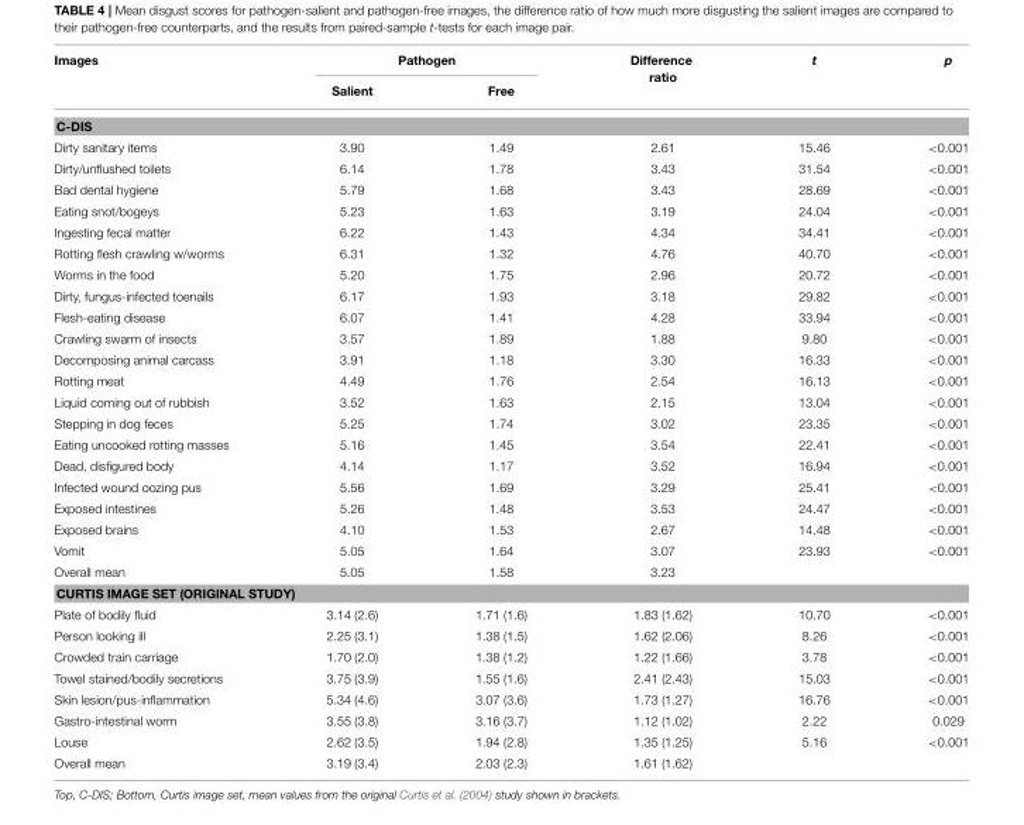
<table><thead><tr><td rowspan="2">Images</td><td colspan="2">Pathogen</td><td rowspan="2">Difference ratio</td><td rowspan="2">t</td><td rowspan="2">p</td></tr><tr><td>Salient</td><td>Free</td></tr></thead><tbody><tr><td colspan="6">C-DIS</td></tr><tr><td>Dirty sanitary items</td><td>3.90</td><td>1.49</td><td>2.61</td><td>15.46</td><td>&lt;0.001</td></tr><tr><td>Dirty/unflushed toilets</td><td>6.14</td><td>1.78</td><td>3.43</td><td>31.54</td><td>&lt;0.001</td></tr><tr><td>Bad dental hygiene</td><td>5.79</td><td>1.68</td><td>3.43</td><td>28.69</td><td>&lt;0.001</td></tr><tr><td>Eating snot/bogeys</td><td>5.23</td><td>1.63</td><td>3.19</td><td>24.04</td><td>&lt;0.001</td></tr><tr><td>Ingesting fecal matter</td><td>6.22</td><td>1.43</td><td>4.34</td><td>34.41</td><td>&lt;0.001</td></tr><tr><td>Rotting flesh crawling w/worms</td><td>6.31</td><td>1.32</td><td>4.76</td><td>40.70</td><td>&lt;0.001</td></tr><tr><td>Worms in the food</td><td>5.20</td><td>1.75</td><td>2.96</td><td>20.72</td><td>&lt;0.001</td></tr><tr><td>Dirty, fungus-infected toenails</td><td>6.17</td><td>1.93</td><td>3.18</td><td>29.82</td><td>&lt;0.001</td></tr><tr><td>Flesh-eating disease</td><td>6.07</td><td>1.41</td><td>4.28</td><td>33.94</td><td>&lt;0.001</td></tr><tr><td>Crawling swarm of insects</td><td>3.57</td><td>1.89</td><td>1.88</td><td>9.80</td><td>&lt;0.001</td></tr><tr><td>Decomposing animal carcass</td><td>3.91</td><td>1.18</td><td>3.30</td><td>16.33</td><td>&lt;0.001</td></tr><tr><td>Rotting meat</td><td>4.49</td><td>1.76</td><td>2.54</td><td>16.13</td><td>&lt;0.001</td></tr><tr><td>Liquid coming out of rubbish</td><td>3.52</td><td>1.63</td><td>2.15</td><td>13.04</td><td>&lt;0.001</td></tr><tr><td>Stepping in dog feces</td><td>5.25</td><td>1.74</td><td>3.02</td><td>23.35</td><td>&lt;0.001</td></tr><tr><td>Eating uncooked rotting masses</td><td>5.16</td><td>1.45</td><td>3.54</td><td>22.41</td><td>&lt;0.001</td></tr><tr><td>Dead, disfigured body</td><td>4.14</td><td>1.17</td><td>3.52</td><td>16.94</td><td>&lt;0.001</td></tr><tr><td>Infected wound oozing pus</td><td>5.56</td><td>1.69</td><td>3.29</td><td>25.41</td><td>&lt;0.001</td></tr><tr><td>Exposed intestines</td><td>5.26</td><td>1.48</td><td>3.53</td><td>24.47</td><td>&lt;0.001</td></tr><tr><td>Exposed brains</td><td>4.10</td><td>1.53</td><td>2.67</td><td>14.48</td><td>&lt;0.001</td></tr><tr><td>Vomit</td><td>5.05</td><td>1.64</td><td>3.07</td><td>23.93</td><td>&lt;0.001</td></tr><tr><td>Overall mean</td><td>5.05</td><td>1.58</td><td>3.23</td><td></td><td></td></tr><tr><td colspan="6">CURTIS IMAGE SET (ORIGINAL STUDY)</td></tr><tr><td>Plate of bodily fluid</td><td>3.14 (2.6)</td><td>1.71 (1.6)</td><td>1.83 (1.62)</td><td>10.70</td><td>&lt;0.001</td></tr><tr><td>Person looking ill</td><td>2.25 (3.1)</td><td>1.38 (1.5)</td><td>1.62 (2.06)</td><td>8.26</td><td>&lt;0.001</td></tr><tr><td>Crowded train carriage</td><td>1.70 (2.0)</td><td>1.38 (1.2)</td><td>1.22 (1.66)</td><td>3.78</td><td>&lt;0.001</td></tr><tr><td>Towel stained/bodily secretions</td><td>3.75 (3.9)</td><td>1.55 (1.6)</td><td>2.41 (2.43)</td><td>15.03</td><td>&lt;0.001</td></tr><tr><td>Skin lesion/pus-inflammation</td><td>5.34 (4.6)</td><td>3.07 (3.6)</td><td>1.73 (1.27)</td><td>16.76</td><td>&lt;0.001</td></tr><tr><td>Gastro-intestinal worm</td><td>3.55 (3.8)</td><td>3.16 (3.7)</td><td>1.12 (1.02)</td><td>2.22</td><td>0.029</td></tr><tr><td>Louse</td><td>2.62 (3.5)</td><td>1.94 (2.8)</td><td>1.35 (1.25)</td><td>5.16</td><td>&lt;0.001</td></tr><tr><td>Overall mean</td><td>3.19 (3.4)</td><td>2.03 (2.3)</td><td>1.61 (1.62)</td><td></td><td></td></tr></tbody></table>